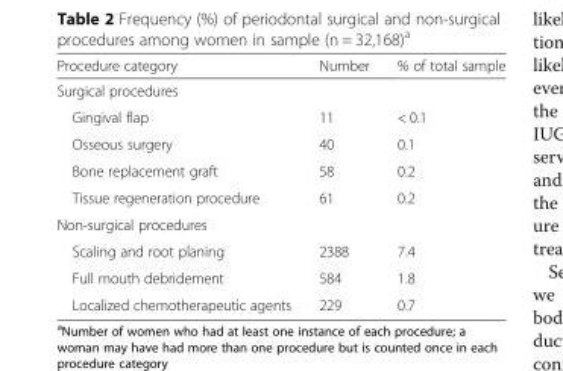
<table><thead><tr><td>Procedure category</td><td>Number</td><td>% of total sample</td></tr></thead><tbody><tr><td colspan="3">Surgical procedures</td></tr><tr><td>Gingival flap</td><td>11</td><td>&lt; 0.1</td></tr><tr><td>Osseous surgery</td><td>40</td><td>0.1</td></tr><tr><td>Bone replacement graft</td><td>58</td><td>0.2</td></tr><tr><td>Tissue regeneration procedure</td><td>61</td><td>0.2</td></tr><tr><td colspan="3">Non-surgical procedures</td></tr><tr><td>Scaling and root planing</td><td>2388</td><td>7.4</td></tr><tr><td>Full mouth debridement</td><td>584</td><td>1.8</td></tr><tr><td>Localized chemotherapeutic agents</td><td>229</td><td>0.7</td></tr></tbody></table>